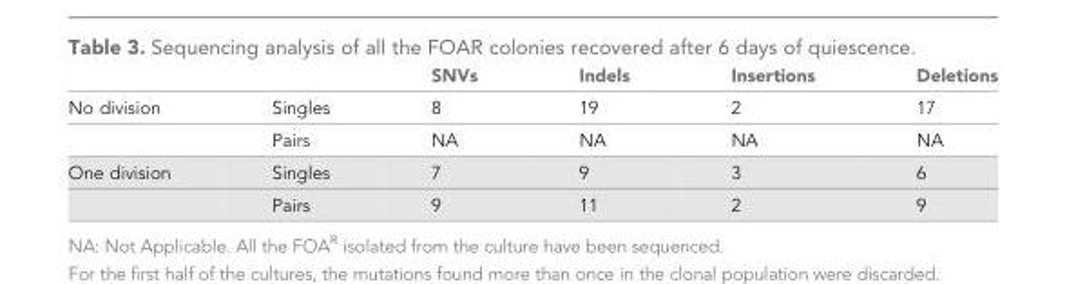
<table><thead><tr><td></td><td></td><td>SNVs</td><td>Indels</td><td>Insertions</td><td>Deletions</td></tr></thead><tbody><tr><td rowspan="2">No division</td><td>Singles</td><td>8</td><td>19</td><td>2</td><td>17</td></tr><tr><td>Pairs</td><td>NA</td><td>NA</td><td>NA</td><td>NA</td></tr><tr><td rowspan="2">One division</td><td>Singles</td><td>7</td><td>9</td><td>3</td><td>6</td></tr><tr><td>Pairs</td><td>9</td><td>11</td><td>2</td><td>9</td></tr></tbody></table>